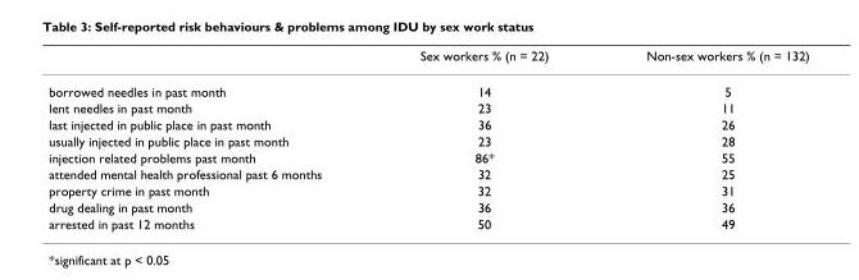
<table><thead><tr><td></td><td>Sex workers % (n = 22)</td><td>Non-sex workers % (n = 132)</td></tr></thead><tbody><tr><td>borrowed needles in past month</td><td>14</td><td>5</td></tr><tr><td>lent needles in past month</td><td>23</td><td>11</td></tr><tr><td>last injected in public place in past month</td><td>36</td><td>26</td></tr><tr><td>usually injected in public place in past month</td><td>23</td><td>28</td></tr><tr><td>injection related problems past month</td><td>86*</td><td>55</td></tr><tr><td>attended mental health professional past 6 months</td><td>32</td><td>25</td></tr><tr><td>property crime in past month</td><td>32</td><td>31</td></tr><tr><td>drug dealing in past month</td><td>36</td><td>36</td></tr><tr><td>arrested in past 12 months</td><td>50</td><td>49</td></tr></tbody></table>